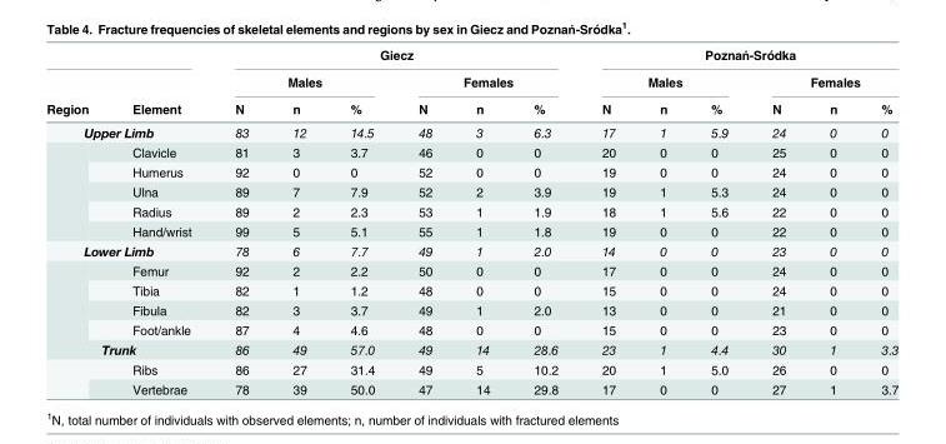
<table><thead><tr><td rowspan="3">Region</td><td rowspan="3">Element</td><td colspan="6">Giecz</td><td colspan="6">Poznań-Sródka</td></tr><tr><td colspan="3">Males</td><td colspan="3">Females</td><td colspan="3">Males</td><td colspan="3">Females</td></tr><tr><td>N</td><td>n</td><td>%</td><td>N</td><td>n</td><td>%</td><td>N</td><td>n</td><td>%</td><td>N</td><td>n</td><td>%</td></tr></thead><tbody><tr><td colspan="2">Upper Limb</td><td>83</td><td>12</td><td>14.5</td><td>48</td><td>3</td><td>6.3</td><td>17</td><td>1</td><td>5.9</td><td>24</td><td>0</td><td>0</td></tr><tr><td rowspan="5"></td><td>Clavicle</td><td>81</td><td>3</td><td>3.7</td><td>46</td><td>0</td><td>0</td><td>20</td><td>0</td><td>0</td><td>25</td><td>0</td><td>0</td></tr><tr><td>Humerus</td><td>92</td><td>0</td><td>0</td><td>52</td><td>0</td><td>0</td><td>19</td><td>0</td><td>0</td><td>24</td><td>0</td><td>0</td></tr><tr><td>Ulna</td><td>89</td><td>7</td><td>7.9</td><td>52</td><td>2</td><td>3.9</td><td>19</td><td>1</td><td>5.3</td><td>24</td><td>0</td><td>0</td></tr><tr><td>Radius</td><td>89</td><td>2</td><td>2.3</td><td>53</td><td>1</td><td>1.9</td><td>18</td><td>1</td><td>5.6</td><td>22</td><td>0</td><td>0</td></tr><tr><td>Hand/wrist</td><td>99</td><td>5</td><td>5.1</td><td>55</td><td>1</td><td>1.8</td><td>19</td><td>0</td><td>0</td><td>22</td><td>0</td><td>0</td></tr><tr><td colspan="2">Lower Limb</td><td>78</td><td>6</td><td>7.7</td><td>49</td><td>1</td><td>2.0</td><td>14</td><td>0</td><td>0</td><td>23</td><td>0</td><td>0</td></tr><tr><td rowspan="4"></td><td>Femur</td><td>92</td><td>2</td><td>2.2</td><td>50</td><td>0</td><td>0</td><td>17</td><td>0</td><td>0</td><td>24</td><td>0</td><td>0</td></tr><tr><td>Tibia</td><td>82</td><td>1</td><td>1.2</td><td>48</td><td>0</td><td>0</td><td>15</td><td>0</td><td>0</td><td>24</td><td>0</td><td>0</td></tr><tr><td>Fibula</td><td>82</td><td>3</td><td>3.7</td><td>49</td><td>1</td><td>2.0</td><td>13</td><td>0</td><td>0</td><td>21</td><td>0</td><td>0</td></tr><tr><td>Foot/ankle</td><td>87</td><td>4</td><td>4.6</td><td>48</td><td>0</td><td>0</td><td>15</td><td>0</td><td>0</td><td>23</td><td>0</td><td>0</td></tr><tr><td colspan="2">Trunk</td><td>86</td><td>49</td><td>57.0</td><td>49</td><td>14</td><td>28.6</td><td>23</td><td>1</td><td>4.4</td><td>30</td><td>1</td><td>3.3</td></tr><tr><td rowspan="2"></td><td>Ribs</td><td>86</td><td>27</td><td>31.4</td><td>49</td><td>5</td><td>10.2</td><td>20</td><td>1</td><td>5.0</td><td>26</td><td>0</td><td>0</td></tr><tr><td>Vertebrae</td><td>78</td><td>39</td><td>50.0</td><td>47</td><td>14</td><td>29.8</td><td>17</td><td>0</td><td>0</td><td>27</td><td>1</td><td>3.7</td></tr></tbody></table>